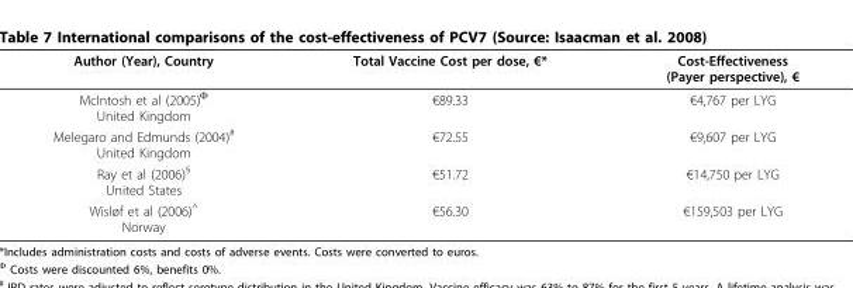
<table><thead><tr><td>Author (Year), Country</td><td>Total Vaccine Cost per dose, €*</td><td>Cost-Effectiveness (Payer perspective), €</td></tr></thead><tbody><tr><td>McIntosh et al (2005)<sup>Φ</sup> United Kingdom</td><td>€89.33</td><td>€4,767 per LYG</td></tr><tr><td>Melegaro and Edmunds (2004)<sup>#</sup> United Kingdom</td><td>€72.55</td><td>€9,607 per LYG</td></tr><tr><td>Ray et al (2006)<sup>§</sup> United States</td><td>€51.72</td><td>€14,750 per LYG</td></tr><tr><td>Wisløf et al (2006)<sup>^</sup> Norway</td><td>€56.30</td><td>€159,503 per LYG</td></tr></tbody></table>